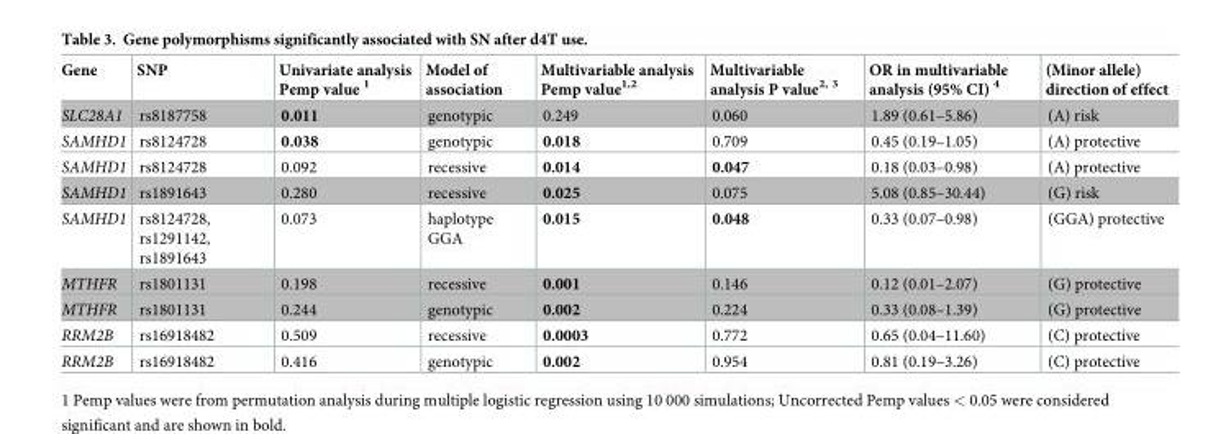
<table><thead><tr><td>Gene</td><td>SNP</td><td>Univariate analysis Pemp value <sup>1</sup></td><td>Model of association</td><td>Multivariable analysis Pemp value<sup>1,2</sup></td><td>Multivariable analysis P value<sup>2, 3</sup></td><td>OR in multivariable analysis (95% CI) <sup>4</sup></td><td>(Minor allele) direction of effect</td></tr></thead><tbody><tr><td>SLC28A1</td><td>rs8187758</td><td>0.011</td><td>genotypic</td><td>0.249</td><td>0.060</td><td>1.89 (0.61–5.86)</td><td>(A) risk</td></tr><tr><td>SAMHD1</td><td>rs8124728</td><td>0.038</td><td>genotypic</td><td>0.018</td><td>0.709</td><td>0.45 (0.19–1.05)</td><td>(A) protective</td></tr><tr><td>SAMHD1</td><td>rs8124728</td><td>0.092</td><td>recessive</td><td>0.014</td><td>0.047</td><td>0.18 (0.03–0.98)</td><td>(A) protective</td></tr><tr><td>SAMHD1</td><td>rs1891643</td><td>0.280</td><td>recessive</td><td>0.025</td><td>0.075</td><td>5.08 (0.85–30.44)</td><td>(G) risk</td></tr><tr><td>SAMHD1</td><td>rs8124728, rs1291142, rs1891643</td><td>0.073</td><td>haplotype GGA</td><td>0.015</td><td>0.048</td><td>0.33 (0.07–0.98)</td><td>(GGA) protective</td></tr><tr><td>MTHFR</td><td>rs1801131</td><td>0.198</td><td>recessive</td><td>0.001</td><td>0.146</td><td>0.12 (0.01–2.07)</td><td>(G) protective</td></tr><tr><td>MTHFR</td><td>rs1801131</td><td>0.244</td><td>genotypic</td><td>0.002</td><td>0.224</td><td>0.33 (0.08–1.39)</td><td>(G) protective</td></tr><tr><td>RRM2B</td><td>rs16918482</td><td>0.509</td><td>recessive</td><td>0.0003</td><td>0.772</td><td>0.65 (0.04–11.60)</td><td>(C) protective</td></tr><tr><td>RRM2B</td><td>rs16918482</td><td>0.416</td><td>genotypic</td><td>0.002</td><td>0.954</td><td>0.81 (0.19–3.26)</td><td>(C) protective</td></tr></tbody></table>